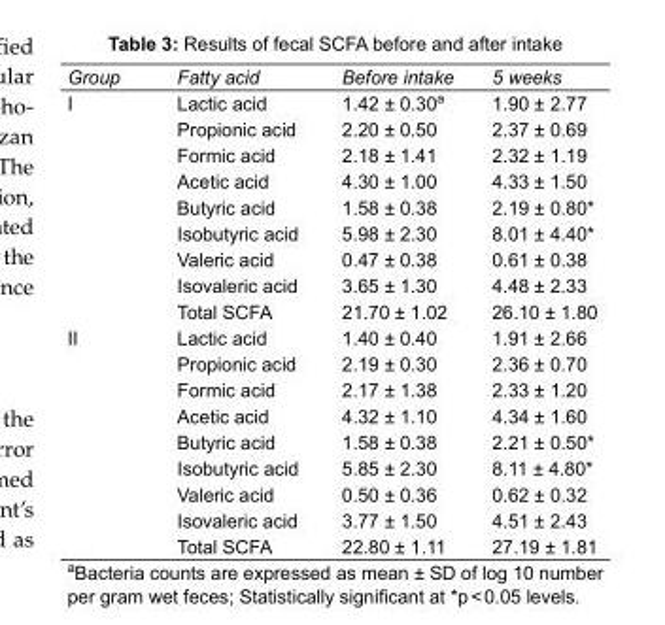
<table><tbody><tr><td>Group</td><td>Fatty acid</td><td>Before intake</td><td>5 weeks</td></tr><tr><td rowspan="9">I</td><td>Lactic acid</td><td>1.42 ± 0.30<sup>a</sup></td><td>1.90 ± 2.77</td></tr><tr><td>Propionic acid</td><td>2.20 ± 0.50</td><td>2.37 ± 0.69</td></tr><tr><td>Formic acid</td><td>2.18 ± 1.41</td><td>2.32 ± 1.19</td></tr><tr><td>Acetic acid</td><td>4.30 ± 1.00</td><td>4.33 ± 1.50</td></tr><tr><td>Butyric acid</td><td>1.58 ± 0.38</td><td>2.19 ± 0.80*</td></tr><tr><td>Isobutyric acid</td><td>5.98 ± 2.30</td><td>8.01 ± 4.40*</td></tr><tr><td>Valeric acid</td><td>0.47 ± 0.38</td><td>0.61 ± 0.38</td></tr><tr><td>Isovaleric acid</td><td>3.65 ± 1.30</td><td>4.48 ± 2.33</td></tr><tr><td>Total SCFA</td><td>21.70 ± 1.02</td><td>26.10 ± 1.80</td></tr><tr><td rowspan="9">II</td><td>Lactic acid</td><td>1.40 ± 0.40</td><td>1.91 ± 2.66</td></tr><tr><td>Propionic acid</td><td>2.19 ± 0.30</td><td>2.36 ± 0.70</td></tr><tr><td>Formic acid</td><td>2.17 ± 1.38</td><td>2.33 ± 1.20</td></tr><tr><td>Acetic acid</td><td>4.32 ± 1.10</td><td>4.34 ± 1.60</td></tr><tr><td>Butyric acid</td><td>1.58 ± 0.38</td><td>2.21 ± 0.50*</td></tr><tr><td>Isobutyric acid</td><td>5.85 ± 2.30</td><td>8.11 ± 4.80*</td></tr><tr><td>Valeric acid</td><td>0.50 ± 0.36</td><td>0.62 ± 0.32</td></tr><tr><td>Isovaleric acid</td><td>3.77 ± 1.50</td><td>4.51 ± 2.43</td></tr><tr><td>Total SCFA</td><td>22.80 ± 1.11</td><td>27.19 ± 1.81</td></tr></tbody></table>